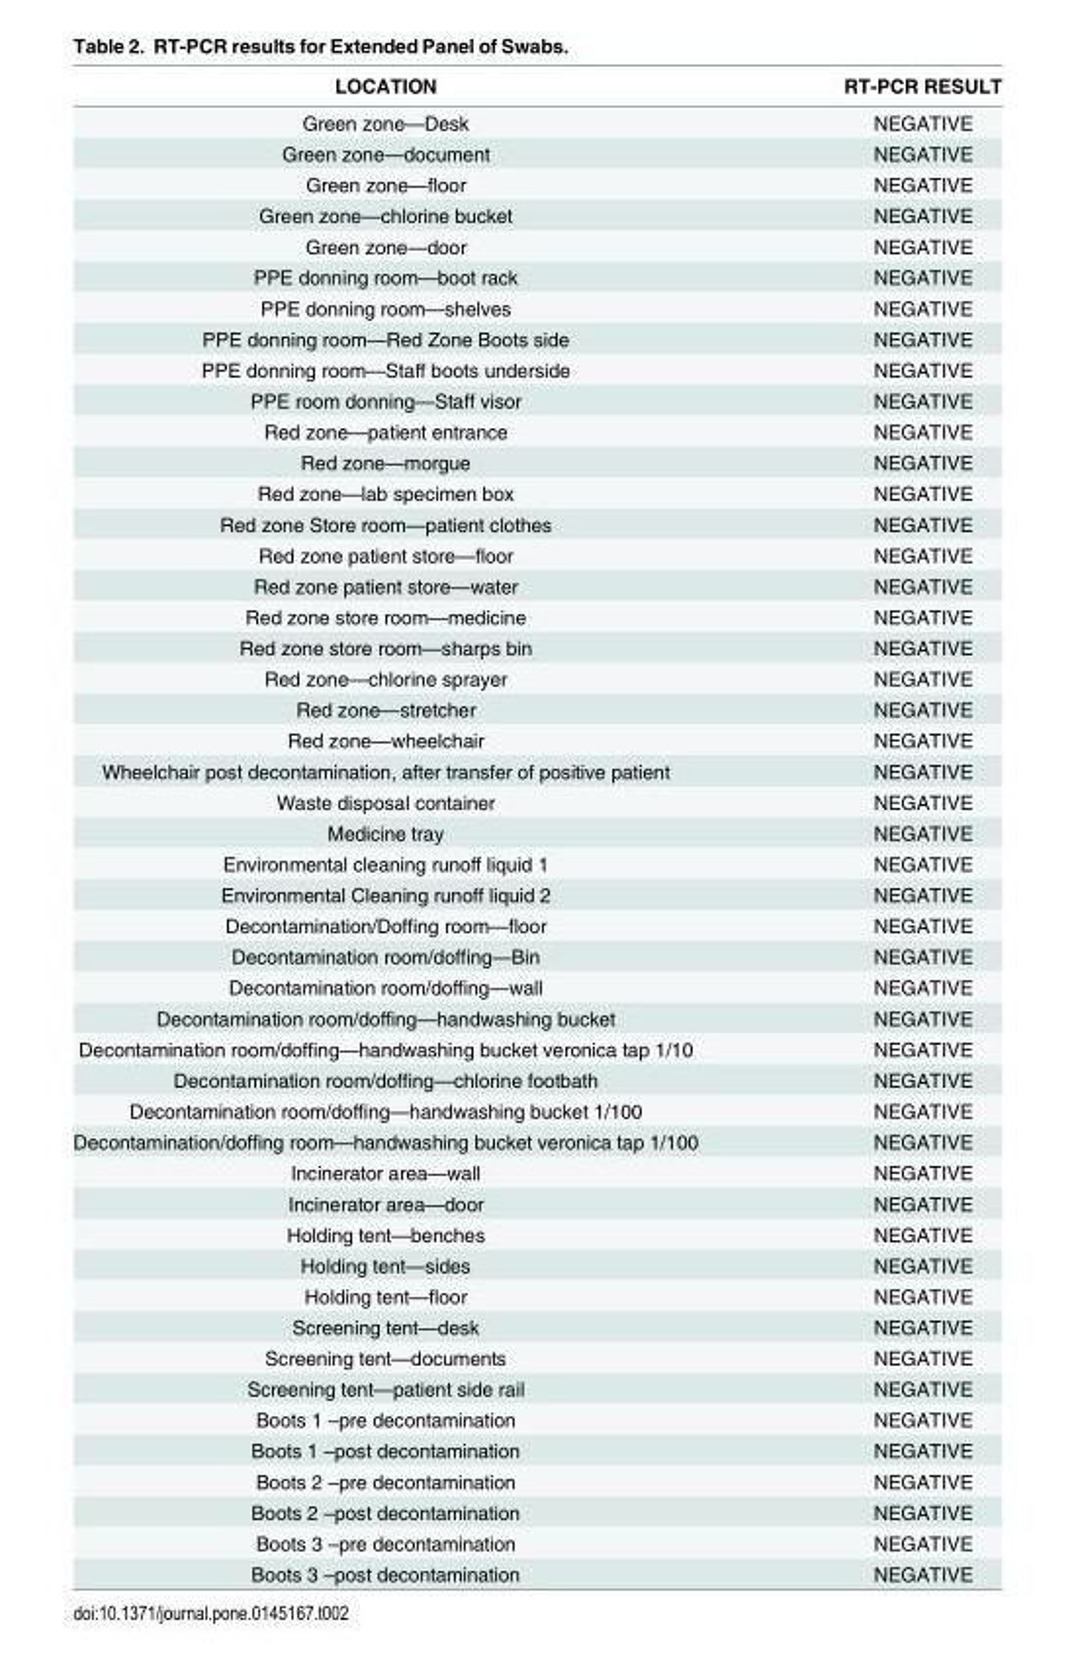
<table><thead><tr><td>LOCATION</td><td>RT-PCR RESULT</td></tr></thead><tbody><tr><td>Green zone—Desk</td><td>NEGATIVE</td></tr><tr><td>Green zone—document</td><td>NEGATIVE</td></tr><tr><td>Green zone—floor</td><td>NEGATIVE</td></tr><tr><td>Green zone—chlorine bucket</td><td>NEGATIVE</td></tr><tr><td>Green zone—door</td><td>NEGATIVE</td></tr><tr><td>PPE donning room—boot rack</td><td>NEGATIVE</td></tr><tr><td>PPE donning room—shelves</td><td>NEGATIVE</td></tr><tr><td>PPE donning room—Red Zone Boots side</td><td>NEGATIVE</td></tr><tr><td>PPE donning room—Staff boots underside</td><td>NEGATIVE</td></tr><tr><td>PPE room donning—Staff visor</td><td>NEGATIVE</td></tr><tr><td>Red zone—patient entrance</td><td>NEGATIVE</td></tr><tr><td>Red zone—morgue</td><td>NEGATIVE</td></tr><tr><td>Red zone—lab specimen box</td><td>NEGATIVE</td></tr><tr><td>Red zone Store room—patient clothes</td><td>NEGATIVE</td></tr><tr><td>Red zone patient store—floor</td><td>NEGATIVE</td></tr><tr><td>Red zone patient store—water</td><td>NEGATIVE</td></tr><tr><td>Red zone store room—medicine</td><td>NEGATIVE</td></tr><tr><td>Red zone store room—sharps bin</td><td>NEGATIVE</td></tr><tr><td>Red zone—chlorine sprayer</td><td>NEGATIVE</td></tr><tr><td>Red zone—stretcher</td><td>NEGATIVE</td></tr><tr><td>Red zone—wheelchair</td><td>NEGATIVE</td></tr><tr><td>Wheelchair post decontamination, after transfer of positive patient</td><td>NEGATIVE</td></tr><tr><td>Waste disposal container</td><td>NEGATIVE</td></tr><tr><td>Medicine tray</td><td>NEGATIVE</td></tr><tr><td>Environmental cleaning runoff liquid 1</td><td>NEGATIVE</td></tr><tr><td>Environmental Cleaning runoff liquid 2</td><td>NEGATIVE</td></tr><tr><td>Decontamination/Doffing room—floor</td><td>NEGATIVE</td></tr><tr><td>Decontamination room/doffing—Bin</td><td>NEGATIVE</td></tr><tr><td>Decontamination room/doffing—wall</td><td>NEGATIVE</td></tr><tr><td>Decontamination room/doffing—handwashing bucket</td><td>NEGATIVE</td></tr><tr><td>Decontamination room/doffing—handwashing bucket veronica tap 1/10</td><td>NEGATIVE</td></tr><tr><td>Decontamination room/doffing—chlorine footbath</td><td>NEGATIVE</td></tr><tr><td>Decontamination room/doffing—handwashing bucket 1/100</td><td>NEGATIVE</td></tr><tr><td>Decontamination/doffing room—handwashing bucket veronica tap 1/100</td><td>NEGATIVE</td></tr><tr><td>Incinerator area—wall</td><td>NEGATIVE</td></tr><tr><td>Incinerator area—door</td><td>NEGATIVE</td></tr><tr><td>Holding tent—benches</td><td>NEGATIVE</td></tr><tr><td>Holding tent—sides</td><td>NEGATIVE</td></tr><tr><td>Holding tent—floor</td><td>NEGATIVE</td></tr><tr><td>Screening tent—desk</td><td>NEGATIVE</td></tr><tr><td>Screening tent—documents</td><td>NEGATIVE</td></tr><tr><td>Screening tent—patient side rail</td><td>NEGATIVE</td></tr><tr><td>Boots 1 –pre decontamination</td><td>NEGATIVE</td></tr><tr><td>Boots 1 –post decontamination</td><td>NEGATIVE</td></tr><tr><td>Boots 2 –pre decontamination</td><td>NEGATIVE</td></tr><tr><td>Boots 2 –post decontamination</td><td>NEGATIVE</td></tr><tr><td>Boots 3 –pre decontamination</td><td>NEGATIVE</td></tr><tr><td>Boots 3 –post decontamination</td><td>NEGATIVE</td></tr></tbody></table>